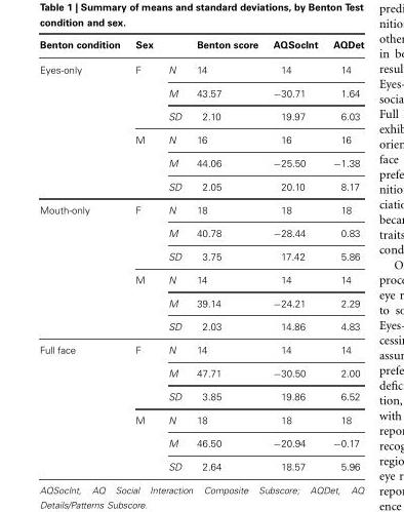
<table><thead><tr><td>Benton condition</td><td>Sex</td><td></td><td>Benton score</td><td>AQSocInt</td><td>AQDet</td></tr></thead><tbody><tr><td rowspan="6">Eyes-only</td><td>F</td><td>N</td><td>14</td><td>14</td><td>14</td></tr><tr><td></td><td>M</td><td>43.57</td><td>−30.71</td><td>1.64</td></tr><tr><td></td><td>SD</td><td>2.10</td><td>19.97</td><td>6.03</td></tr><tr><td>M</td><td>N</td><td>16</td><td>16</td><td>16</td></tr><tr><td></td><td>M</td><td>44.06</td><td>−25.50</td><td>−1.38</td></tr><tr><td></td><td>SD</td><td>2.05</td><td>20.10</td><td>8.17</td></tr><tr><td rowspan="6">Mouth-only</td><td>F</td><td>N</td><td>18</td><td>18</td><td>18</td></tr><tr><td></td><td>M</td><td>40.78</td><td>−28.44</td><td>0.83</td></tr><tr><td></td><td>SD</td><td>3.75</td><td>17.42</td><td>5.86</td></tr><tr><td>M</td><td>N</td><td>14</td><td>14</td><td>14</td></tr><tr><td></td><td>M</td><td>39.14</td><td>−24.21</td><td>2.29</td></tr><tr><td></td><td>SD</td><td>2.03</td><td>14.86</td><td>4.83</td></tr><tr><td rowspan="6">Full face</td><td>F</td><td>N</td><td>14</td><td>14</td><td>14</td></tr><tr><td></td><td>M</td><td>47.71</td><td>−30.50</td><td>2.00</td></tr><tr><td></td><td>SD</td><td>3.85</td><td>19.86</td><td>6.52</td></tr><tr><td>M</td><td>N</td><td>18</td><td>18</td><td>18</td></tr><tr><td></td><td>M</td><td>46.50</td><td>−20.94</td><td>−0.17</td></tr><tr><td></td><td>SD</td><td>2.64</td><td>18.57</td><td>5.96</td></tr></tbody></table>